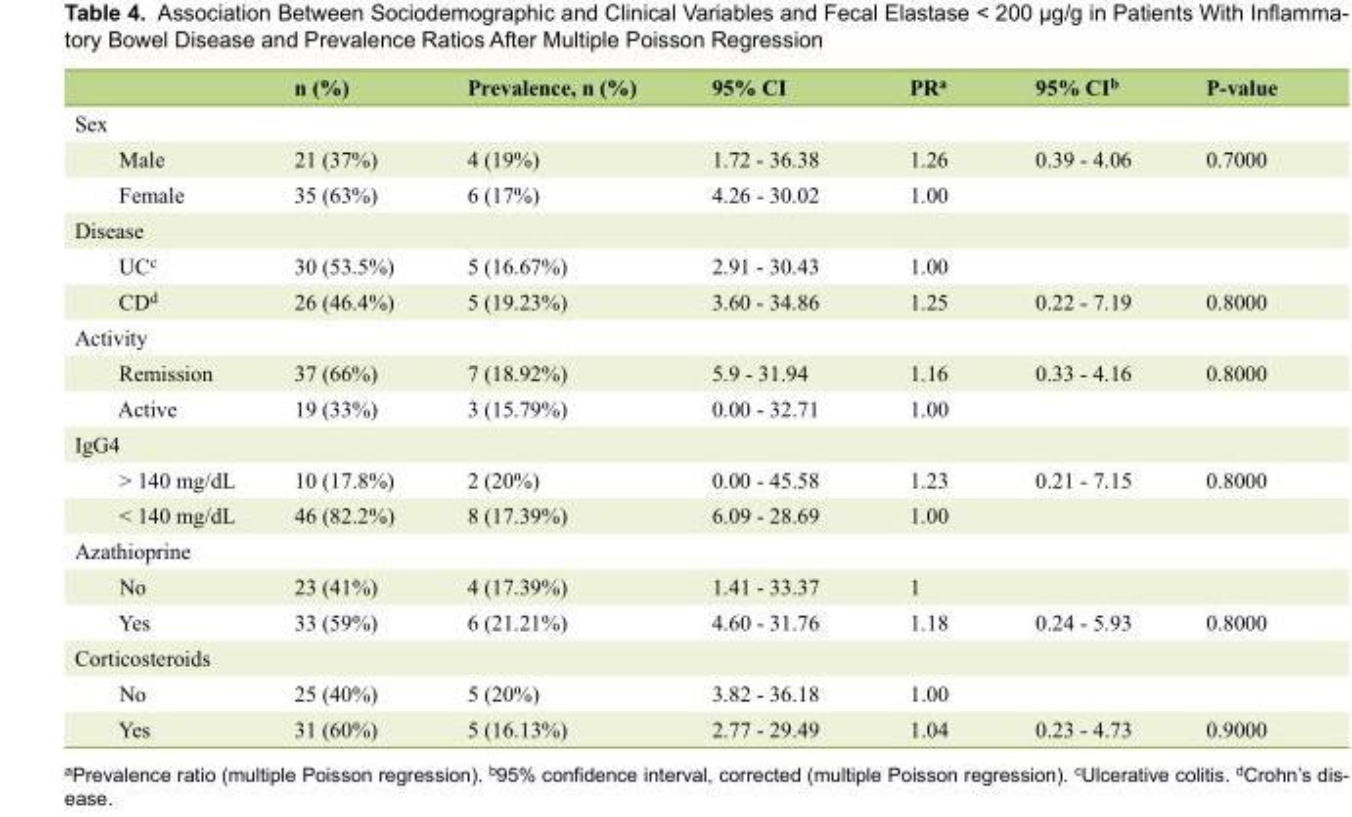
<table><thead><tr><td></td><td>n (%)</td><td>Prevalence, n (%)</td><td>95% CI</td><td>PR<sup>a</sup></td><td>95% CI<sup>b</sup></td><td>P-value</td></tr></thead><tbody><tr><td colspan="7">Sex</td></tr><tr><td>Male</td><td>21 (37%)</td><td>4 (19%)</td><td>1.72 - 36.38</td><td>1.26</td><td>0.39 - 4.06</td><td>0.7000</td></tr><tr><td>Female</td><td>35 (63%)</td><td>6 (17%)</td><td>4.26 - 30.02</td><td>1.00</td><td></td><td></td></tr><tr><td colspan="7">Disease</td></tr><tr><td>UC<sup>c</sup></td><td>30 (53.5%)</td><td>5 (16.67%)</td><td>2.91 - 30.43</td><td>1.00</td><td></td><td></td></tr><tr><td>CD<sup>d</sup></td><td>26 (46.4%)</td><td>5 (19.23%)</td><td>3.60 - 34.86</td><td>1.25</td><td>0.22 - 7.19</td><td>0.8000</td></tr><tr><td colspan="7">Activity</td></tr><tr><td>Remission</td><td>37 (66%)</td><td>7 (18.92%)</td><td>5.9 - 31.94</td><td>1.16</td><td>0.33 - 4.16</td><td>0.8000</td></tr><tr><td>Active</td><td>19 (33%)</td><td>3 (15.79%)</td><td>0.00 - 32.71</td><td>1.00</td><td></td><td></td></tr><tr><td colspan="7">IgG4</td></tr><tr><td>&gt; 140 mg/dL</td><td>10 (17.8%)</td><td>2 (20%)</td><td>0.00 - 45.58</td><td>1.23</td><td>0.21 - 7.15</td><td>0.8000</td></tr><tr><td>&lt; 140 mg/dL</td><td>46 (82.2%)</td><td>8 (17.39%)</td><td>6.09 - 28.69</td><td>1.00</td><td></td><td></td></tr><tr><td colspan="7">Azathioprine</td></tr><tr><td>No</td><td>23 (41%)</td><td>4 (17.39%)</td><td>1.41 - 33.37</td><td>1</td><td></td><td></td></tr><tr><td>Yes</td><td>33 (59%)</td><td>6 (21.21%)</td><td>4.60 - 31.76</td><td>1.18</td><td>0.24 - 5.93</td><td>0.8000</td></tr><tr><td colspan="7">Corticosteroids</td></tr><tr><td>No</td><td>25 (40%)</td><td>5 (20%)</td><td>3.82 - 36.18</td><td>1.00</td><td></td><td></td></tr><tr><td>Yes</td><td>31 (60%)</td><td>5 (16.13%)</td><td>2.77 - 29.49</td><td>1.04</td><td>0.23 - 4.73</td><td>0.9000</td></tr></tbody></table>